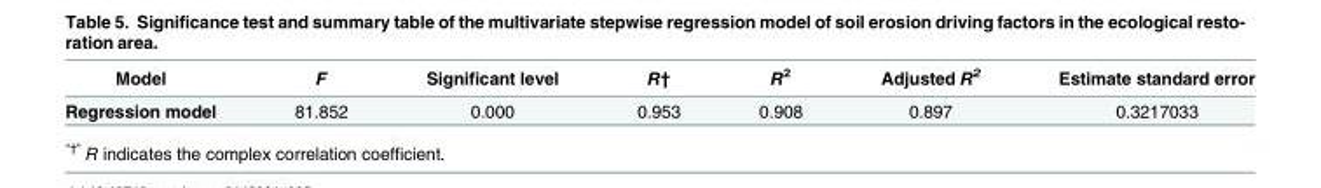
<table><thead><tr><td>Model</td><td>F</td><td>Significant level</td><td>R†</td><td>R<sup>2</sup></td><td>Adjusted R<sup>2</sup></td><td>Estimate standard error</td></tr></thead><tbody><tr><td>Regression model</td><td>81.852</td><td>0.000</td><td>0.953</td><td>0.908</td><td>0.897</td><td>0.3217033</td></tr></tbody></table>